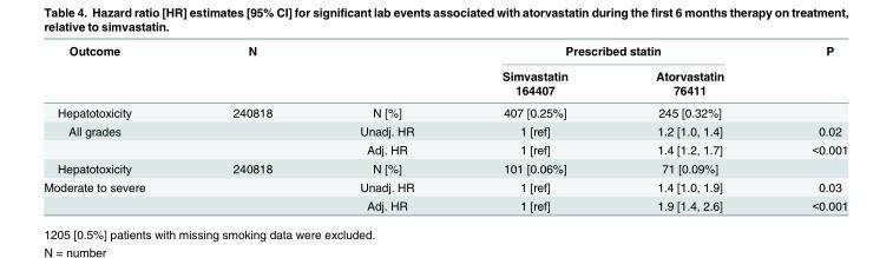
<table><thead><tr><td rowspan="3">Outcome</td><td rowspan="3">N</td><td rowspan="3"></td><td colspan="2">Prescribed statin</td><td rowspan="3">P</td></tr><tr><td rowspan="2">Simvastatin 164407</td><td rowspan="2">Atorvastatin 76411</td></tr><tr></tr></thead><tbody><tr><td>Hepatotoxicity</td><td>240818</td><td>N [%]</td><td>407 [0.25%]</td><td>245 [0.32%]</td><td></td></tr><tr><td rowspan="2">All grades</td><td></td><td>Unadj. HR</td><td>1 [ref]</td><td>1.2 [1.0, 1.4]</td><td>0.02</td></tr><tr><td></td><td>Adj. HR</td><td>1 [ref]</td><td>1.4 [1.2, 1.7]</td><td>&lt;0.001</td></tr><tr><td>Hepatotoxicity</td><td>240818</td><td>N [%]</td><td>101 [0.06%]</td><td>71 [0.09%]</td><td></td></tr><tr><td rowspan="2">Moderate to severe</td><td></td><td>Unadj. HR</td><td>1 [ref]</td><td>1.4 [1.0, 1.9]</td><td>0.03</td></tr><tr><td></td><td>Adj. HR</td><td>1 [ref]</td><td>1.9 [1.4, 2.6]</td><td>&lt;0.001</td></tr></tbody></table>